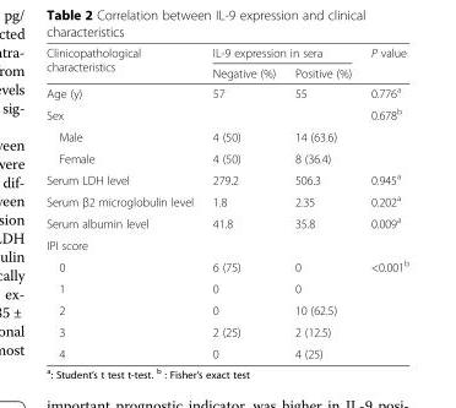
<table><thead><tr><td rowspan="2">Clinicopathological characteristics</td><td colspan="2">IL-9 expression in sera</td><td rowspan="2">P value</td></tr><tr><td>Negative (%)</td><td>Positive (%)</td></tr></thead><tbody><tr><td>Age (y)</td><td>57</td><td>55</td><td>0.776<sup>a</sup></td></tr><tr><td colspan="3">Sex</td><td rowspan="3">0.678<sup>b</sup></td></tr><tr><td>Male</td><td>4 (50)</td><td>14 (63.6)</td></tr><tr><td>Female</td><td>4 (50)</td><td>8 (36.4)</td></tr><tr><td>Serum LDH level</td><td>279.2</td><td>506.3</td><td>0.945<sup>a</sup></td></tr><tr><td>Serum β2 microglobulin level</td><td>1.8</td><td>2.35</td><td>0.202<sup>a</sup></td></tr><tr><td>Serum albumin level</td><td>41.8</td><td>35.8</td><td>0.009<sup>a</sup></td></tr><tr><td colspan="4">IPI score</td></tr><tr><td>0</td><td>6 (75)</td><td>0</td><td rowspan="5">&lt;0.001<sup>b</sup></td></tr><tr><td>1</td><td>0</td><td>0</td></tr><tr><td>2</td><td>0</td><td>10 (62.5)</td></tr><tr><td>3</td><td>2 (25)</td><td>2 (12.5)</td></tr><tr><td>4</td><td>0</td><td>4 (25)</td></tr></tbody></table>